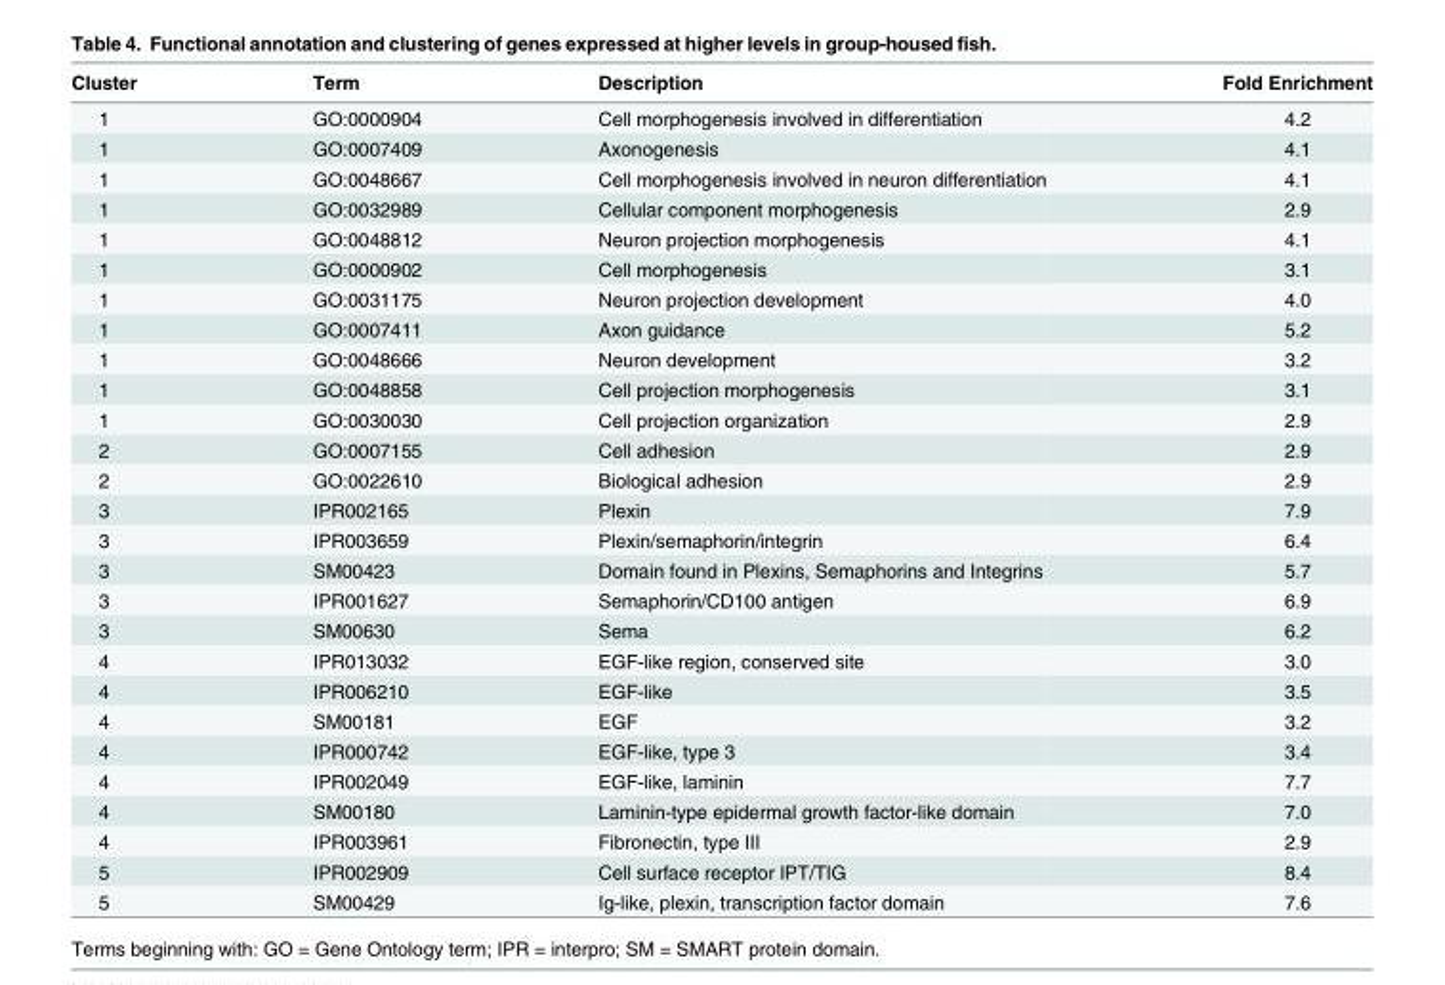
<table><thead><tr><td>Cluster</td><td>Term</td><td>Description</td><td>Fold Enrichment</td></tr></thead><tbody><tr><td>1</td><td>GO:0000904</td><td>Cell morphogenesis involved in differentiation</td><td>4.2</td></tr><tr><td>1</td><td>GO:0007409</td><td>Axonogenesis</td><td>4.1</td></tr><tr><td>1</td><td>GO:0048667</td><td>Cell morphogenesis involved in neuron differentiation</td><td>4.1</td></tr><tr><td>1</td><td>GO:0032989</td><td>Cellular component morphogenesis</td><td>2.9</td></tr><tr><td>1</td><td>GO:0048812</td><td>Neuron projection morphogenesis</td><td>4.1</td></tr><tr><td>1</td><td>GO:0000902</td><td>Cell morphogenesis</td><td>3.1</td></tr><tr><td>1</td><td>GO:0031175</td><td>Neuron projection development</td><td>4.0</td></tr><tr><td>1</td><td>GO:0007411</td><td>Axon guidance</td><td>5.2</td></tr><tr><td>1</td><td>GO:0048666</td><td>Neuron development</td><td>3.2</td></tr><tr><td>1</td><td>GO:0048858</td><td>Cell projection morphogenesis</td><td>3.1</td></tr><tr><td>1</td><td>GO:0030030</td><td>Cell projection organization</td><td>2.9</td></tr><tr><td>2</td><td>GO:0007155</td><td>Cell adhesion</td><td>2.9</td></tr><tr><td>2</td><td>GO:0022610</td><td>Biological adhesion</td><td>2.9</td></tr><tr><td>3</td><td>IPR002165</td><td>Plexin</td><td>7.9</td></tr><tr><td>3</td><td>IPR003659</td><td>Plexin/semaphorin/integrin</td><td>6.4</td></tr><tr><td>3</td><td>SM00423</td><td>Domain found in Plexins, Semaphorins and Integrins</td><td>5.7</td></tr><tr><td>3</td><td>IPR001627</td><td>Semaphorin/CD100 antigen</td><td>6.9</td></tr><tr><td>3</td><td>SM00630</td><td>Sema</td><td>6.2</td></tr><tr><td>4</td><td>IPR013032</td><td>EGF-like region, conserved site</td><td>3.0</td></tr><tr><td>4</td><td>IPR006210</td><td>EGF-like</td><td>3.5</td></tr><tr><td>4</td><td>SM00181</td><td>EGF</td><td>3.2</td></tr><tr><td>4</td><td>IPR000742</td><td>EGF-like, type 3</td><td>3.4</td></tr><tr><td>4</td><td>IPR002049</td><td>EGF-like, laminin</td><td>7.7</td></tr><tr><td>4</td><td>SM00180</td><td>Laminin-type epidermal growth factor-like domain</td><td>7.0</td></tr><tr><td>4</td><td>IPR003961</td><td>Fibronectin, type III</td><td>2.9</td></tr><tr><td>5</td><td>IPR002909</td><td>Cell surface receptor IPT/TIG</td><td>8.4</td></tr><tr><td>5</td><td>SM00429</td><td>Ig-like, plexin, transcription factor domain</td><td>7.6</td></tr></tbody></table>